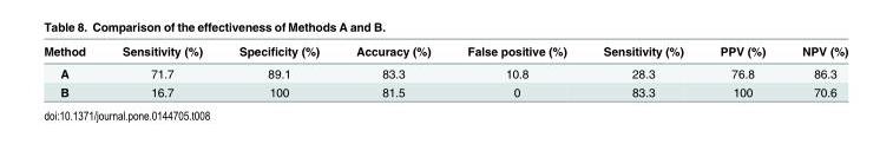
<table><thead><tr><td>Method</td><td>Sensitivity (%)</td><td>Specificity (%)</td><td>Accuracy (%)</td><td>False positive (%)</td><td>Sensitivity (%)</td><td>PPV (%)</td><td>NPV (%)</td></tr></thead><tbody><tr><td>A</td><td>71.7</td><td>89.1</td><td>83.3</td><td>10.8</td><td>28.3</td><td>76.8</td><td>86.3</td></tr><tr><td>B</td><td>16.7</td><td>100</td><td>81.5</td><td>0</td><td>83.3</td><td>100</td><td>70.6</td></tr></tbody></table>